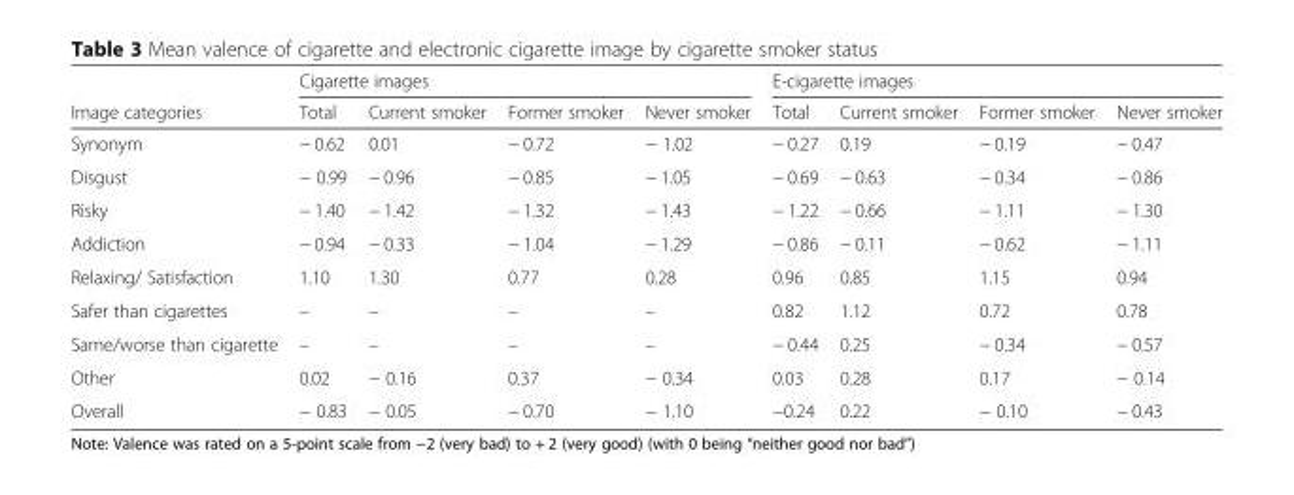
<table><thead><tr><td rowspan="2">Image categories</td><td colspan="4">Cigarette images</td><td colspan="4">E-cigarette images</td></tr><tr><td>Total</td><td>Current smoker</td><td>Former smoker</td><td>Never smoker</td><td>Total</td><td>Current smoker</td><td>Former smoker</td><td>Never smoker</td></tr></thead><tbody><tr><td>Synonym</td><td>− 0.62</td><td>0.01</td><td>− 0.72</td><td>− 1.02</td><td>− 0.27</td><td>0.19</td><td>− 0.19</td><td>− 0.47</td></tr><tr><td>Disgust</td><td>− 0.99</td><td>− 0.96</td><td>− 0.85</td><td>− 1.05</td><td>− 0.69</td><td>− 0.63</td><td>− 0.34</td><td>− 0.86</td></tr><tr><td>Risky</td><td>− 1.40</td><td>− 1.42</td><td>− 1.32</td><td>− 1.43</td><td>− 1.22</td><td>− 0.66</td><td>− 1.11</td><td>− 1.30</td></tr><tr><td>Addiction</td><td>− 0.94</td><td>− 0.33</td><td>− 1.04</td><td>− 1.29</td><td>− 0.86</td><td>− 0.11</td><td>− 0.62</td><td>− 1.11</td></tr><tr><td>Relaxing/ Satisfaction</td><td>1.10</td><td>1.30</td><td>0.77</td><td>0.28</td><td>0.96</td><td>0.85</td><td>1.15</td><td>0.94</td></tr><tr><td>Safer than cigarettes</td><td>–</td><td>–</td><td>–</td><td>–</td><td>0.82</td><td>1.12</td><td>0.72</td><td>0.78</td></tr><tr><td>Same/worse than cigarette</td><td>–</td><td>–</td><td>–</td><td>–</td><td>− 0.44</td><td>0.25</td><td>− 0.34</td><td>− 0.57</td></tr><tr><td>Other</td><td>0.02</td><td>− 0.16</td><td>0.37</td><td>− 0.34</td><td>0.03</td><td>0.28</td><td>0.17</td><td>− 0.14</td></tr><tr><td>Overall</td><td>− 0.83</td><td>− 0.05</td><td>− 0.70</td><td>− 1.10</td><td>−0.24</td><td>0.22</td><td>− 0.10</td><td>− 0.43</td></tr></tbody></table>